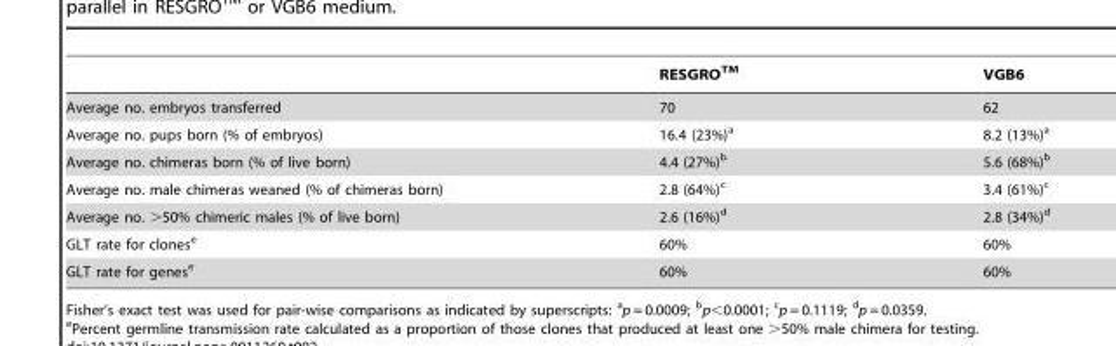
<table><thead><tr><td></td><td>RESGROTM</td><td>VGB6</td></tr></thead><tbody><tr><td>Average no. embryos transferred</td><td>70</td><td>62</td></tr><tr><td>Average no. pups born (% of embryos)</td><td>16.4 (23%)<sup>a</sup></td><td>8.2 (13%)<sup>a</sup></td></tr><tr><td>Average no. chimeras born (% of live born)</td><td>4.4 (27%)<sup>b</sup></td><td>5.6 (68%)<sup>b</sup></td></tr><tr><td>Average no. male chimeras weaned (% of chimeras born)</td><td>2.8 (64%)<sup>c</sup></td><td>3.4 (61%)<sup>c</sup></td></tr><tr><td>Average no. &gt;50% chimeric males (% of live born)</td><td>2.6 (16%)<sup>d</sup></td><td>2.8 (34%)<sup>d</sup></td></tr><tr><td>GLT rate for clones<sup>e</sup></td><td>60%</td><td>60%</td></tr><tr><td>GLT rate for genes<sup>e</sup></td><td>60%</td><td>60%</td></tr></tbody></table>